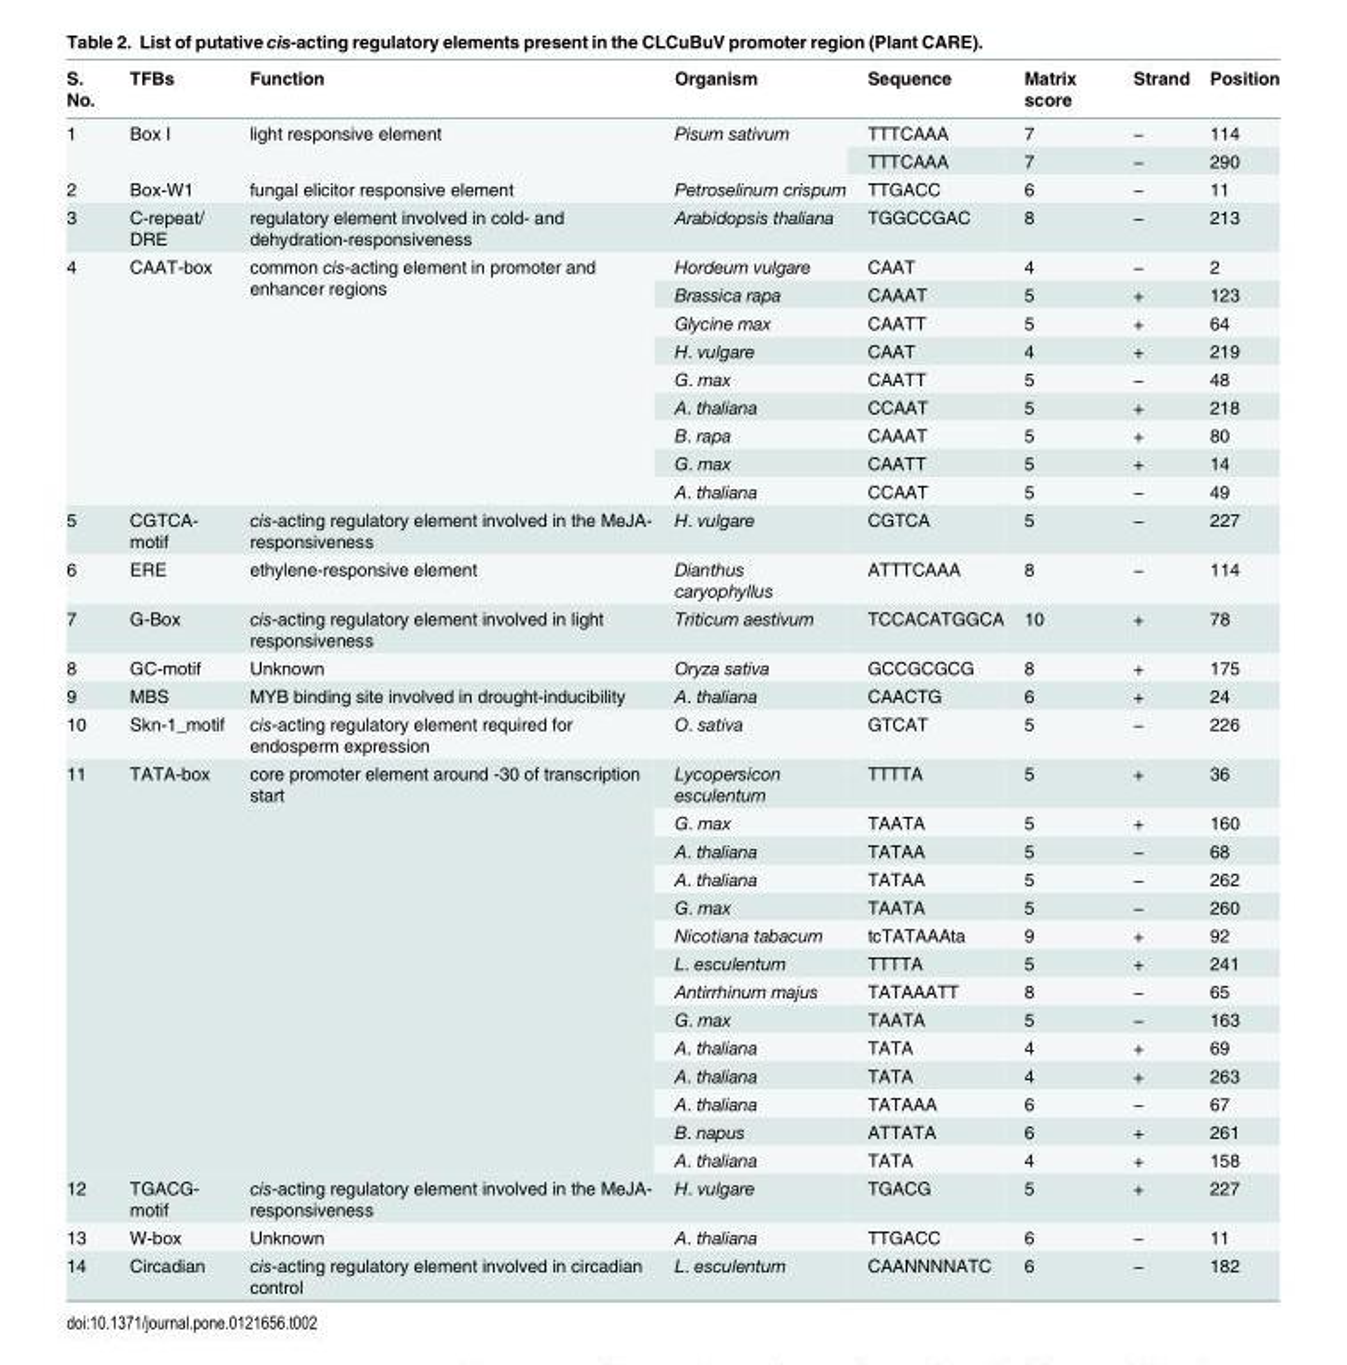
<table><thead><tr><td>S. No.</td><td>TFBs</td><td>Function</td><td>Organism</td><td>Sequence</td><td>Matrix score</td><td>Strand</td><td>Position</td></tr></thead><tbody><tr><td rowspan="2">1</td><td rowspan="2">Box I</td><td rowspan="2">light responsive element</td><td rowspan="2">Pisum sativum</td><td>TTTCAAA</td><td>7</td><td>−</td><td>114</td></tr><tr><td>TTTCAAA</td><td>7</td><td>−</td><td>290</td></tr><tr><td>2</td><td>Box-W1</td><td>fungal elicitor responsive element</td><td>Petroselinum crispum</td><td>TTGACC</td><td>6</td><td>−</td><td>11</td></tr><tr><td>3</td><td>C-repeat/ DRE</td><td>regulatory element involved in cold- and dehydration-responsiveness</td><td>Arabidopsis thaliana</td><td>TGGCCGAC</td><td>8</td><td>−</td><td>213</td></tr><tr><td rowspan="9">4</td><td rowspan="9">CAAT-box</td><td rowspan="9">common cis-acting element in promoter and enhancer regions</td><td>Hordeum vulgare</td><td>CAAT</td><td>4</td><td>−</td><td>2</td></tr><tr><td>Brassica rapa</td><td>CAAAT</td><td>5</td><td>+</td><td>123</td></tr><tr><td>Glycine max</td><td>CAATT</td><td>5</td><td>+</td><td>64</td></tr><tr><td>H. vulgare</td><td>CAAT</td><td>4</td><td>+</td><td>219</td></tr><tr><td>G. max</td><td>CAATT</td><td>5</td><td>−</td><td>48</td></tr><tr><td>A. thaliana</td><td>CCAAT</td><td>5</td><td>+</td><td>218</td></tr><tr><td>B. rapa</td><td>CAAAT</td><td>5</td><td>+</td><td>80</td></tr><tr><td>G. max</td><td>CAATT</td><td>5</td><td>+</td><td>14</td></tr><tr><td>A. thaliana</td><td>CCAAT</td><td>5</td><td>−</td><td>49</td></tr><tr><td>5</td><td>CGTCA- motif</td><td>cis-acting regulatory element involved in the MeJA- responsiveness</td><td>H. vulgare</td><td>CGTCA</td><td>5</td><td>−</td><td>227</td></tr><tr><td>6</td><td>ERE</td><td>ethylene-responsive element</td><td>Dianthus caryophyllus</td><td>ATTTCAAA</td><td>8</td><td>−</td><td>114</td></tr><tr><td>7</td><td>G-Box</td><td>cis-acting regulatory element involved in light responsiveness</td><td>Triticum aestivum</td><td>TCCACATGGCA</td><td>10</td><td>+</td><td>78</td></tr><tr><td>8</td><td>GC-motif</td><td>Unknown</td><td>Oryza sativa</td><td>GCCGCGCG</td><td>8</td><td>+</td><td>175</td></tr><tr><td>9</td><td>MBS</td><td>MYB binding site involved in drought-inducibility</td><td>A. thaliana</td><td>CAACTG</td><td>6</td><td>+</td><td>24</td></tr><tr><td>10</td><td>Skn-1_motif</td><td>cis-acting regulatory element required for endosperm expression</td><td>O. sativa</td><td>GTCAT</td><td>5</td><td>−</td><td>226</td></tr><tr><td rowspan="14">11</td><td rowspan="14">TATA-box</td><td rowspan="14">core promoter element around -30 of transcription start</td><td>Lycopersicon esculentum</td><td>TTTTA</td><td>5</td><td>+</td><td>36</td></tr><tr><td>G. max</td><td>TAATA</td><td>5</td><td>+</td><td>160</td></tr><tr><td>A. thaliana</td><td>TATAA</td><td>5</td><td>−</td><td>68</td></tr><tr><td>A. thaliana</td><td>TATAA</td><td>5</td><td>−</td><td>262</td></tr><tr><td>G. max</td><td>TAATA</td><td>5</td><td>−</td><td>260</td></tr><tr><td>Nicotiana tabacum</td><td>tcTATAAAta</td><td>9</td><td>+</td><td>92</td></tr><tr><td>L. esculentum</td><td>TTTTA</td><td>5</td><td>+</td><td>241</td></tr><tr><td>Antirrhinum majus</td><td>TATAAATT</td><td>8</td><td>−</td><td>65</td></tr><tr><td>G. max</td><td>TAATA</td><td>5</td><td>−</td><td>163</td></tr><tr><td>A. thaliana</td><td>TATA</td><td>4</td><td>+</td><td>69</td></tr><tr><td>A. thaliana</td><td>TATA</td><td>4</td><td>+</td><td>263</td></tr><tr><td>A. thaliana</td><td>TATAAA</td><td>6</td><td>−</td><td>67</td></tr><tr><td>B. napus</td><td>ATTATA</td><td>6</td><td>+</td><td>261</td></tr><tr><td>A. thaliana</td><td>TATA</td><td>4</td><td>+</td><td>158</td></tr><tr><td>12</td><td>TGACG- motif</td><td>cis-acting regulatory element involved in the MeJA- responsiveness</td><td>H. vulgare</td><td>TGACG</td><td>5</td><td>+</td><td>227</td></tr><tr><td>13</td><td>W-box</td><td>Unknown</td><td>A. thaliana</td><td>TTGACC</td><td>6</td><td>−</td><td>11</td></tr><tr><td>14</td><td>Circadian</td><td>cis-acting regulatory element involved in circadian control</td><td>L. esculentum</td><td>CAANNNNATC</td><td>6</td><td>−</td><td>182</td></tr></tbody></table>